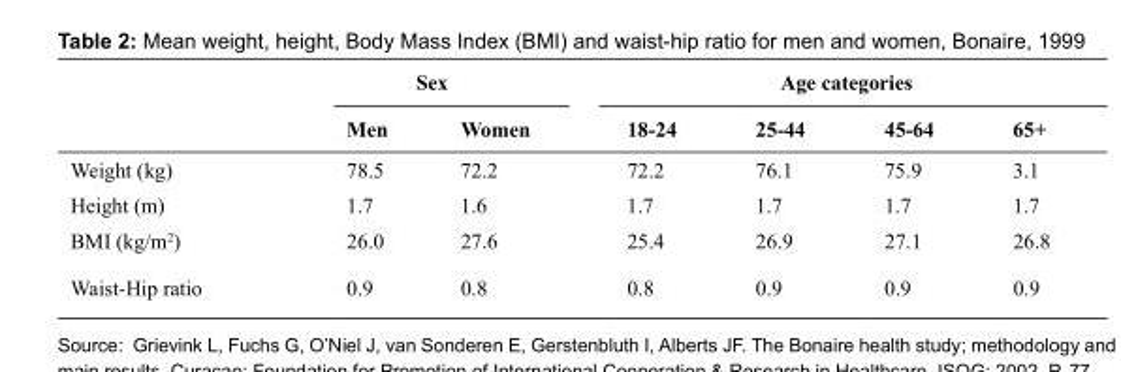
<table><thead><tr><td rowspan="2"></td><td colspan="2">Sex</td><td colspan="4">Age categories</td></tr><tr><td>Men</td><td>Women</td><td>18-24</td><td>25-44</td><td>45-64</td><td>65+</td></tr></thead><tbody><tr><td>Weight (kg)</td><td>78.5</td><td>72.2</td><td>72.2</td><td>76.1</td><td>75.9</td><td>3.1</td></tr><tr><td>Height (m)</td><td>1.7</td><td>1.6</td><td>1.7</td><td>1.7</td><td>1.7</td><td>1.7</td></tr><tr><td>BMI (kg/m<sup>2</sup>)</td><td>26.0</td><td>27.6</td><td>25.4</td><td>26.9</td><td>27.1</td><td>26.8</td></tr><tr><td>Waist-Hip ratio</td><td>0.9</td><td>0.8</td><td>0.8</td><td>0.9</td><td>0.9</td><td>0.9</td></tr></tbody></table>